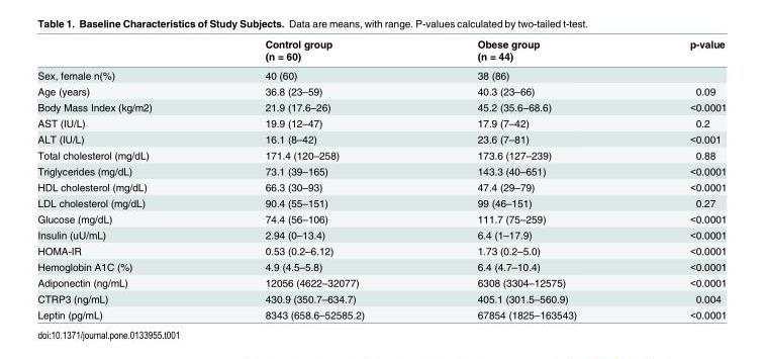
<table><thead><tr><td rowspan="2"></td><td rowspan="2">Control group (n = 60)</td><td rowspan="2">Obese group (n = 44)</td><td rowspan="2">p-value</td></tr><tr></tr></thead><tbody><tr><td>Sex, female n(%)</td><td>40 (60)</td><td>38 (86)</td><td></td></tr><tr><td>Age (years)</td><td>36.8 (23–59)</td><td>40.3 (23–66)</td><td>0.09</td></tr><tr><td>Body Mass Index (kg/m2)</td><td>21.9 (17.6–26)</td><td>45.2 (35.6–68.6)</td><td>&lt;0.0001</td></tr><tr><td>AST (IU/L)</td><td>19.9 (12–47)</td><td>17.9 (7–42)</td><td>0.2</td></tr><tr><td>ALT (IU/L)</td><td>16.1 (8–42)</td><td>23.6 (7–81)</td><td>&lt;0.001</td></tr><tr><td>Total cholesterol (mg/dL)</td><td>171.4 (120–258)</td><td>173.6 (127–239)</td><td>0.88</td></tr><tr><td>Triglycerides (mg/dL)</td><td>73.1 (39–165)</td><td>143.3 (40–651)</td><td>&lt;0.0001</td></tr><tr><td>HDL cholesterol (mg/dL)</td><td>66.3 (30–93)</td><td>47.4 (29–79)</td><td>&lt;0.0001</td></tr><tr><td>LDL cholesterol (mg/dL)</td><td>90.4 (55–151)</td><td>99 (46–151)</td><td>0.27</td></tr><tr><td>Glucose (mg/dL)</td><td>74.4 (56–106)</td><td>111.7 (75–259)</td><td>&lt;0.0001</td></tr><tr><td>Insulin (uU/mL)</td><td>2.94 (0–13.4)</td><td>6.4 (1–17.9)</td><td>&lt;0.0001</td></tr><tr><td>HOMA-IR</td><td>0.53 (0.2–6.12)</td><td>1.73 (0.2–5.0)</td><td>&lt;0.0001</td></tr><tr><td>Hemoglobin A1C (%)</td><td>4.9 (4.5–5.8)</td><td>6.4 (4.7–10.4)</td><td>&lt;0.0001</td></tr><tr><td>Adiponectin (ng/mL)</td><td>12056 (4622–32077)</td><td>6308 (3304–12575)</td><td>&lt;0.0001</td></tr><tr><td>CTRP3 (ng/mL)</td><td>430.9 (350.7–634.7)</td><td>405.1 (301.5–560.9)</td><td>0.004</td></tr><tr><td>Leptin (pg/mL)</td><td>8343 (658.6–52585.2)</td><td>67854 (1825–163543)</td><td>&lt;0.0001</td></tr></tbody></table>